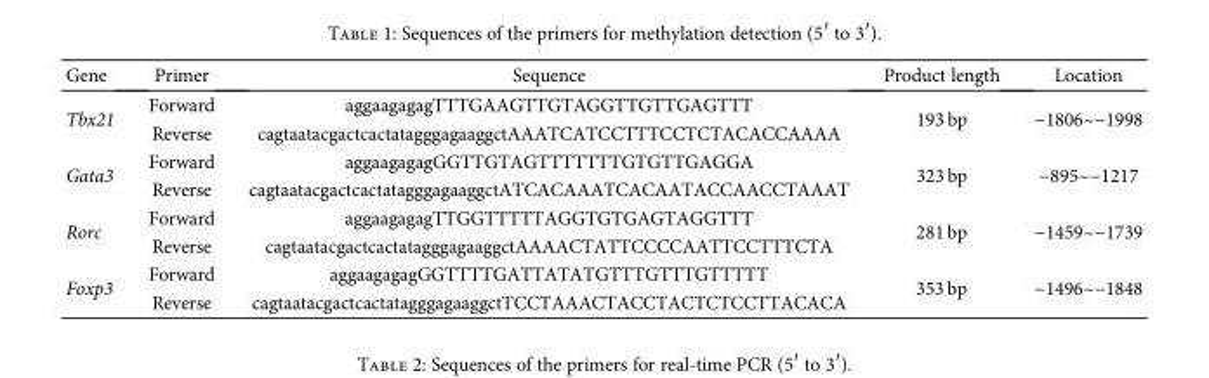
<table><thead><tr><td>Gene</td><td>Primer</td><td>Sequence</td><td>Product length</td><td>Location</td></tr></thead><tbody><tr><td rowspan="2">Tbx21</td><td>Forward</td><td>aggaagagagTTTGAAGTTGTAGGTTGTTGAGTTT</td><td rowspan="2">193 bp</td><td rowspan="2">−1806~−1998</td></tr><tr><td>Reverse</td><td>cagtaatacgactcactatagggagaaggctAAATCATCCTTTCCTCTACACCAAAA</td></tr><tr><td rowspan="2">Gata3</td><td>Forward</td><td>aggaagagagGGTTGTAGTTTTTTTGTGTTGAGGA</td><td rowspan="2">323 bp</td><td rowspan="2">−895~−1217</td></tr><tr><td>Reverse</td><td>cagtaatacgactcactatagggagaaggctATCACAAATCACAATACCAACCTAAAT</td></tr><tr><td rowspan="2">Rorc</td><td>Forward</td><td>aggaagagagTTGGTTTTTAGGTGTGAGTAGGTTT</td><td rowspan="2">281 bp</td><td rowspan="2">−1459~−1739</td></tr><tr><td>Reverse</td><td>cagtaatacgactcactatagggagaaggctAAAACTATTCCCCAATTCCTTTCTA</td></tr><tr><td rowspan="2">Foxp3</td><td>Forward</td><td>aggaagagagGGTTTTGATTATATGTTTGTTTGTTTTT</td><td rowspan="2">353 bp</td><td rowspan="2">−1496~−1848</td></tr><tr><td>Reverse</td><td>cagtaatacgactcactatagggagaaggctTCCTAAACTACCTACTCTCCTTACACA</td></tr></tbody></table>